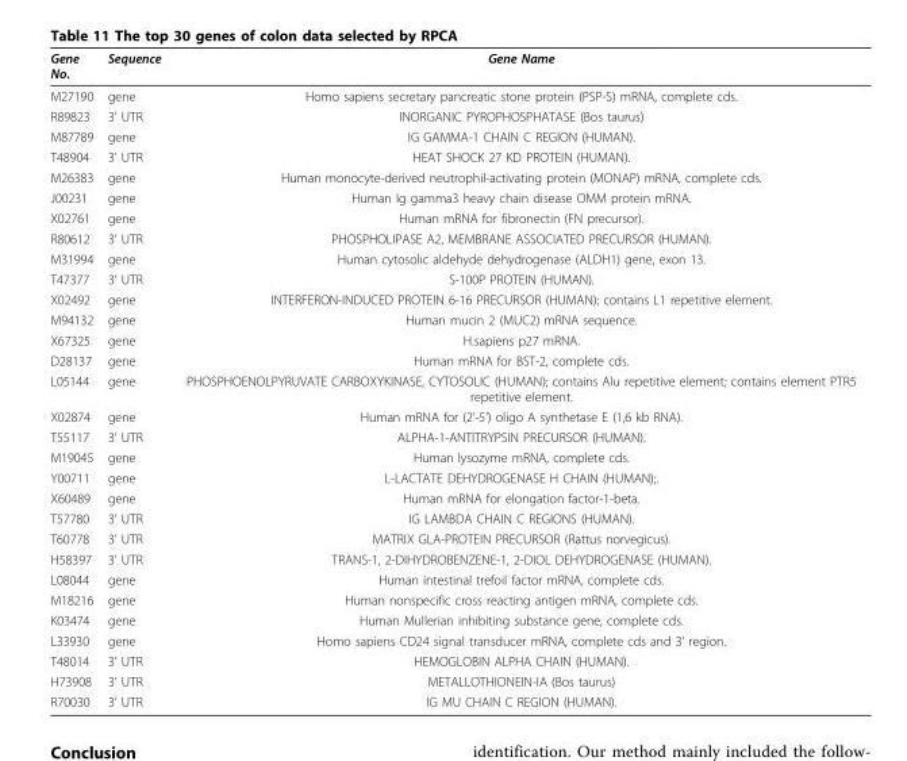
<table><thead><tr><td>Gene No.</td><td>Sequence</td><td>Gene Name</td></tr></thead><tbody><tr><td>M27190</td><td>gene</td><td>Homo sapiens secretary pancreatic stone protein (PSP-S) mRNA, complete cds.</td></tr><tr><td>R89823</td><td>3’ UTR</td><td>INORGANIC PYROPHOSPHATASE (Bos taurus)</td></tr><tr><td>M87789</td><td>gene</td><td>IG GAMMA-1 CHAIN C REGION (HUMAN).</td></tr><tr><td>T48904</td><td>3’ UTR</td><td>HEAT SHOCK 27 KD PROTEIN (HUMAN).</td></tr><tr><td>M26383</td><td>gene</td><td>Human monocyte-derived neutrophil-activating protein (MONAP) mRNA, complete cds.</td></tr><tr><td>J00231</td><td>gene</td><td>Human Ig gamma3 heavy chain disease OMM protein mRNA.</td></tr><tr><td>X02761</td><td>gene</td><td>Human mRNA for fibronectin (FN precursor).</td></tr><tr><td>R80612</td><td>3’ UTR</td><td>PHOSPHOLIPASE A2, MEMBRANE ASSOCIATED PRECURSOR (HUMAN).</td></tr><tr><td>M31994</td><td>gene</td><td>Human cytosolic aldehyde dehydrogenase (ALDH1) gene, exon 13.</td></tr><tr><td>T47377</td><td>3’ UTR</td><td>S-100P PROTEIN (HUMAN).</td></tr><tr><td>X02492</td><td>gene</td><td>INTERFERON-INDUCED PROTEIN 6-16 PRECURSOR (HUMAN); contains L1 repetitive element.</td></tr><tr><td>M94132</td><td>gene</td><td>Human mucin 2 (MUC2) mRNA sequence.</td></tr><tr><td>X67325</td><td>gene</td><td>H.sapiens p27 mRNA.</td></tr><tr><td>D28137</td><td>gene</td><td>Human mRNA for BST-2, complete cds.</td></tr><tr><td>L05144</td><td>gene</td><td>PHOSPHOENOLPYRUVATE CARBOXYKINASE, CYTOSOLIC (HUMAN); contains Alu repetitive element; contains element PTR5 repetitive element.</td></tr><tr><td>X02874</td><td>gene</td><td>Human mRNA for (2’-5’) oligo A synthetase E (1,6 kb RNA).</td></tr><tr><td>T55117</td><td>3’ UTR</td><td>ALPHA-1-ANTITRYPSIN PRECURSOR (HUMAN).</td></tr><tr><td>M19045</td><td>gene</td><td>Human lysozyme mRNA, complete cds.</td></tr><tr><td>Y00711</td><td>gene</td><td>L-LACTATE DEHYDROGENASE H CHAIN (HUMAN);.</td></tr><tr><td>X60489</td><td>gene</td><td>Human mRNA for elongation factor-1-beta.</td></tr><tr><td>T57780</td><td>3’ UTR</td><td>IG LAMBDA CHAIN C REGIONS (HUMAN).</td></tr><tr><td>T60778</td><td>3’ UTR</td><td>MATRIX GLA-PROTEIN PRECURSOR (Rattus norvegicus).</td></tr><tr><td>H58397</td><td>3’ UTR</td><td>TRANS-1, 2-DIHYDROBENZENE-1, 2-DIOL DEHYDROGENASE (HUMAN).</td></tr><tr><td>L08044</td><td>gene</td><td>Human intestinal trefoil factor mRNA, complete cds.</td></tr><tr><td>M18216</td><td>gene</td><td>Human nonspecific cross reacting antigen mRNA, complete cds.</td></tr><tr><td>K03474</td><td>gene</td><td>Human Mullerian inhibiting substance gene, complete cds.</td></tr><tr><td>L33930</td><td>gene</td><td>Homo sapiens CD24 signal transducer mRNA, complete cds and 3’ region.</td></tr><tr><td>T48014</td><td>3’ UTR</td><td>HEMOGLOBIN ALPHA CHAIN (HUMAN).</td></tr><tr><td>H73908</td><td>3’ UTR</td><td>METALLOTHIONEIN-IA (Bos taurus)</td></tr><tr><td>R70030</td><td>3’ UTR</td><td>IG MU CHAIN C REGION (HUMAN).</td></tr></tbody></table>